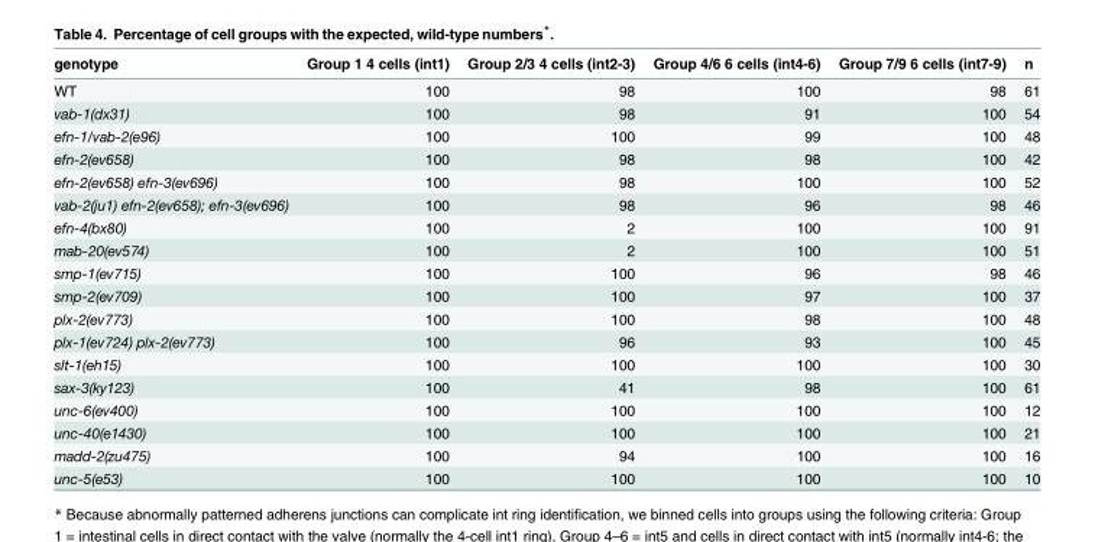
<table><thead><tr><td>genotype</td><td>Group 1 4 cells (int1)</td><td>Group 2/3 4 cells (int2-3)</td><td>Group 4/6 6 cells (int4-6)</td><td>Group 7/9 6 cells (int7-9)</td><td>n</td></tr></thead><tbody><tr><td>WT</td><td>100</td><td>98</td><td>100</td><td>98</td><td>61</td></tr><tr><td>vab-1(dx31)</td><td>100</td><td>98</td><td>91</td><td>100</td><td>54</td></tr><tr><td>efn-1/vab-2(e96)</td><td>100</td><td>100</td><td>99</td><td>100</td><td>48</td></tr><tr><td>efn-2(ev658)</td><td>100</td><td>98</td><td>98</td><td>100</td><td>42</td></tr><tr><td>efn-2(ev658) efn-3(ev696)</td><td>100</td><td>98</td><td>100</td><td>100</td><td>52</td></tr><tr><td>vab-2(ju1) efn-2(ev658); efn-3(ev696)</td><td>100</td><td>98</td><td>96</td><td>98</td><td>46</td></tr><tr><td>efn-4(bx80)</td><td>100</td><td>2</td><td>100</td><td>100</td><td>91</td></tr><tr><td>mab-20(ev574)</td><td>100</td><td>2</td><td>100</td><td>100</td><td>51</td></tr><tr><td>smp-1(ev715)</td><td>100</td><td>100</td><td>96</td><td>98</td><td>46</td></tr><tr><td>smp-2(ev709)</td><td>100</td><td>100</td><td>97</td><td>100</td><td>37</td></tr><tr><td>plx-2(ev773)</td><td>100</td><td>100</td><td>98</td><td>100</td><td>48</td></tr><tr><td>plx-1(ev724) plx-2(ev773)</td><td>100</td><td>96</td><td>93</td><td>100</td><td>45</td></tr><tr><td>slt-1(eh15)</td><td>100</td><td>100</td><td>100</td><td>100</td><td>30</td></tr><tr><td>sax-3(ky123)</td><td>100</td><td>41</td><td>98</td><td>100</td><td>61</td></tr><tr><td>unc-6(ev400)</td><td>100</td><td>100</td><td>100</td><td>100</td><td>12</td></tr><tr><td>unc-40(e1430)</td><td>100</td><td>100</td><td>100</td><td>100</td><td>21</td></tr><tr><td>madd-2(zu475)</td><td>100</td><td>94</td><td>100</td><td>100</td><td>16</td></tr><tr><td>unc-5(e53)</td><td>100</td><td>100</td><td>100</td><td>100</td><td>10</td></tr></tbody></table>